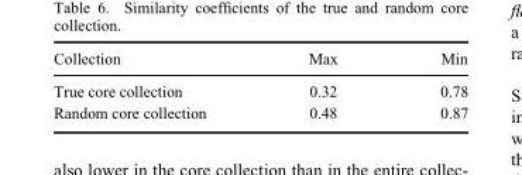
<table><thead><tr><td>Collection</td><td>Max</td><td>Min</td></tr></thead><tbody><tr><td>True core collection</td><td>0.32</td><td>0.78</td></tr><tr><td>Random core collection</td><td>0.48</td><td>0.87</td></tr></tbody></table>